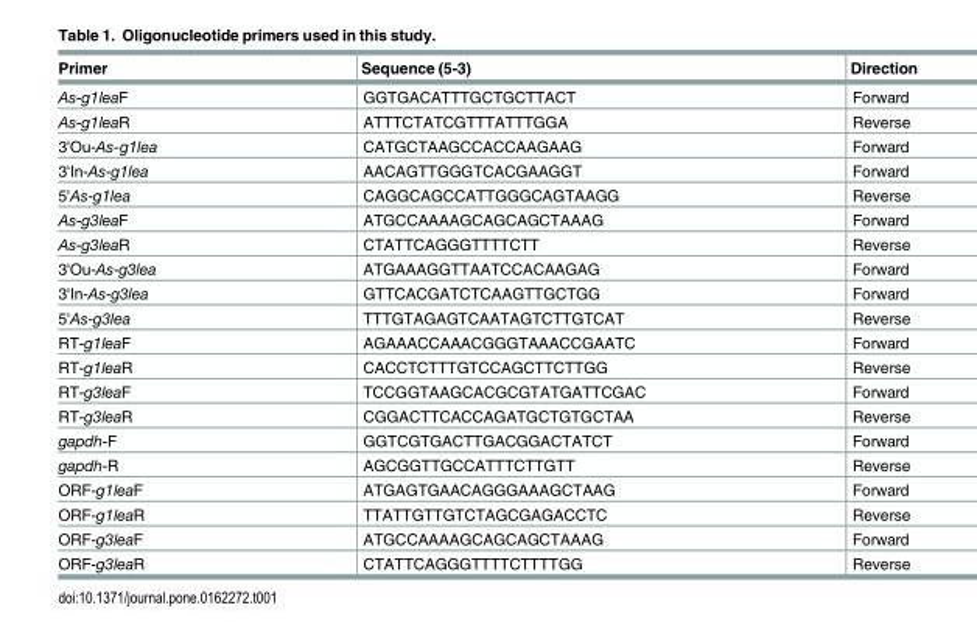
<table><thead><tr><td>Primer</td><td>Sequence (5-3)</td><td>Direction</td></tr></thead><tbody><tr><td>As-g1leaF</td><td>GGTGACATTTGCTGCTTACT</td><td>Forward</td></tr><tr><td>As-g1leaR</td><td>ATTTCTATCGTTTATTTGGA</td><td>Reverse</td></tr><tr><td>3&#x27;Ou-As-g1lea</td><td>CATGCTAAGCCACCAAGAAG</td><td>Forward</td></tr><tr><td>3&#x27;In-As-g1lea</td><td>AACAGTTGGGTCACGAAGGT</td><td>Forward</td></tr><tr><td>5&#x27;As-g1lea</td><td>CAGGCAGCCATTGGGCAGTAAGG</td><td>Reverse</td></tr><tr><td>As-g3leaF</td><td>ATGCCAAAAGCAGCAGCTAAAG</td><td>Forward</td></tr><tr><td>As-g3leaR</td><td>CTATTCAGGGTTTTCTT</td><td>Reverse</td></tr><tr><td>3&#x27;Ou-As-g3lea</td><td>ATGAAAGGTTAATCCACAAGAG</td><td>Forward</td></tr><tr><td>3&#x27;In-As-g3lea</td><td>GTTCACGATCTCAAGTTGCTGG</td><td>Forward</td></tr><tr><td>5&#x27;As-g3lea</td><td>TTTGTAGAGTCAATAGTCTTGTCAT</td><td>Reverse</td></tr><tr><td>RT-g1leaF</td><td>AGAAACCAAACGGGTAAACCGAATC</td><td>Forward</td></tr><tr><td>RT-g1leaR</td><td>CACCTCTTTGTCCAGCTTCTTGG</td><td>Reverse</td></tr><tr><td>RT-g3leaF</td><td>TCCGGTAAGCACGCGTATGATTCGAC</td><td>Forward</td></tr><tr><td>RT-g3leaR</td><td>CGGACTTCACCAGATGCTGTGCTAA</td><td>Reverse</td></tr><tr><td>gapdh-F</td><td>GGTCGTGACTTGACGGACTATCT</td><td>Forward</td></tr><tr><td>gapdh-R</td><td>AGCGGTTGCCATTTCTTGTT</td><td>Reverse</td></tr><tr><td>ORF-g1leaF</td><td>ATGAGTGAACAGGGAAAGCTAAG</td><td>Forward</td></tr><tr><td>ORF-g1leaR</td><td>TTATTGTTGTCTAGCGAGACCTC</td><td>Reverse</td></tr><tr><td>ORF-g3leaF</td><td>ATGCCAAAAGCAGCAGCTAAAG</td><td>Forward</td></tr><tr><td>ORF-g3leaR</td><td>CTATTCAGGGTTTTCTTTTGG</td><td>Reverse</td></tr></tbody></table>